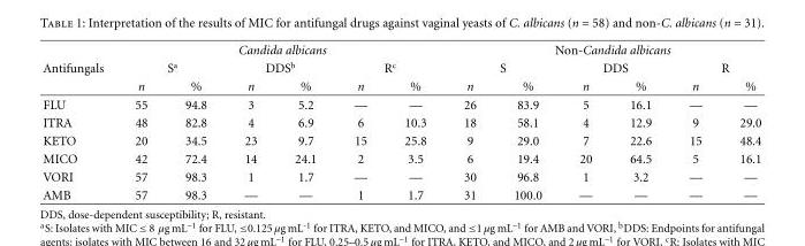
<table><thead><tr><td rowspan="3">Antifungals</td><td colspan="6">Candida albicans</td><td colspan="6">Non-Candida albicans</td></tr><tr><td colspan="2">S<sup>a</sup></td><td colspan="2">DDS<sup>b</sup></td><td colspan="2">R<sup>c</sup></td><td colspan="2">S</td><td colspan="2">DDS</td><td colspan="2">R</td></tr><tr><td>n</td><td>%</td><td>n</td><td>%</td><td>n</td><td>%</td><td>n</td><td>%</td><td>n</td><td>%</td><td>n</td><td>%</td></tr></thead><tbody><tr><td>FLU</td><td>55</td><td>94.8</td><td>3</td><td>5.2</td><td>—</td><td>—</td><td>26</td><td>83.9</td><td>5</td><td>16.1</td><td>—</td><td>—</td></tr><tr><td>ITRA</td><td>48</td><td>82.8</td><td>4</td><td>6.9</td><td>6</td><td>10.3</td><td>18</td><td>58.1</td><td>4</td><td>12.9</td><td>9</td><td>29.0</td></tr><tr><td>KETO</td><td>20</td><td>34.5</td><td>23</td><td>9.7</td><td>15</td><td>25.8</td><td>9</td><td>29.0</td><td>7</td><td>22.6</td><td>15</td><td>48.4</td></tr><tr><td>MICO</td><td>42</td><td>72.4</td><td>14</td><td>24.1</td><td>2</td><td>3.5</td><td>6</td><td>19.4</td><td>20</td><td>64.5</td><td>5</td><td>16.1</td></tr><tr><td>VORI</td><td>57</td><td>98.3</td><td>1</td><td>1.7</td><td>—</td><td>—</td><td>30</td><td>96.8</td><td>1</td><td>3.2</td><td>—</td><td>—</td></tr><tr><td>AMB</td><td>57</td><td>98.3</td><td>—</td><td>—</td><td>1</td><td>1.7</td><td>31</td><td>100.0</td><td>—</td><td>—</td><td>—</td><td>—</td></tr></tbody></table>